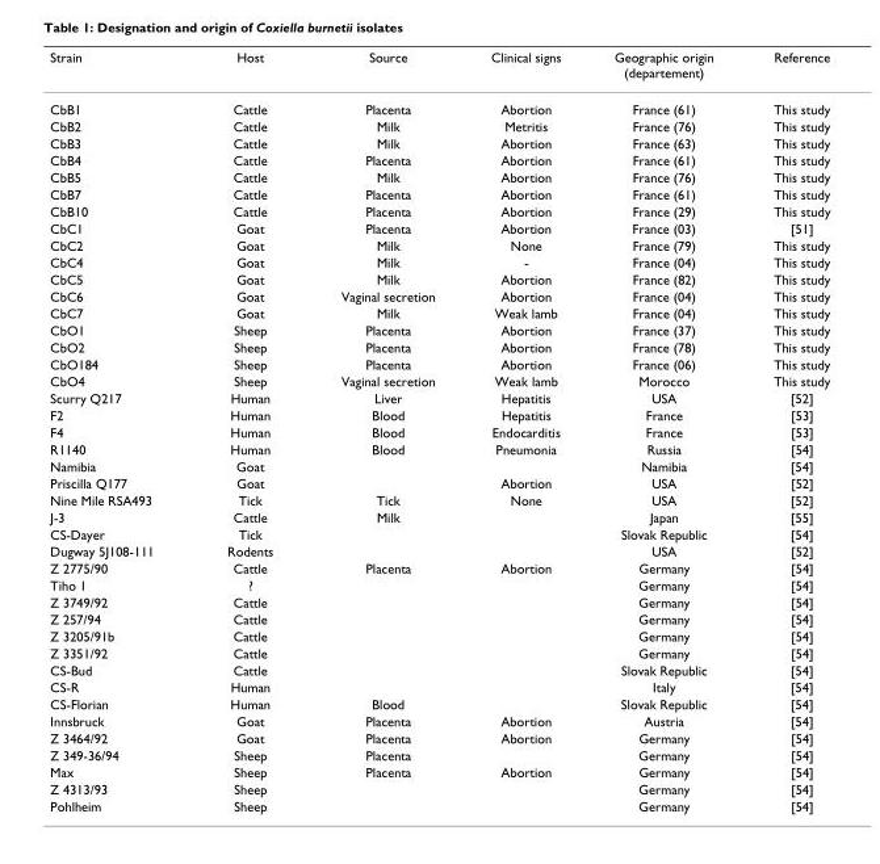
<table><thead><tr><td>Strain</td><td>Host</td><td>Source</td><td>Clinical signs</td><td>Geographic origin (departement)</td><td>Reference</td></tr></thead><tbody><tr><td>CbB1</td><td>Cattle</td><td>Placenta</td><td>Abortion</td><td>France (61)</td><td>This study</td></tr><tr><td>CbB2</td><td>Cattle</td><td>Milk</td><td>Metritis</td><td>France (76)</td><td>This study</td></tr><tr><td>CbB3</td><td>Cattle</td><td>Milk</td><td>Abortion</td><td>France (63)</td><td>This study</td></tr><tr><td>CbB4</td><td>Cattle</td><td>Placenta</td><td>Abortion</td><td>France (61)</td><td>This study</td></tr><tr><td>CbB5</td><td>Cattle</td><td>Milk</td><td>Abortion</td><td>France (76)</td><td>This study</td></tr><tr><td>CbB7</td><td>Cattle</td><td>Placenta</td><td>Abortion</td><td>France (61)</td><td>This study</td></tr><tr><td>CbB10</td><td>Cattle</td><td>Placenta</td><td>Abortion</td><td>France (29)</td><td>This study</td></tr><tr><td>CbC1</td><td>Goat</td><td>Placenta</td><td>Abortion</td><td>France (03)</td><td>[51]</td></tr><tr><td>CbC2</td><td>Goat</td><td>Milk</td><td>None</td><td>France (79)</td><td>This study</td></tr><tr><td>CbC4</td><td>Goat</td><td>Milk</td><td>-</td><td>France (04)</td><td>This study</td></tr><tr><td>CbC5</td><td>Goat</td><td>Milk</td><td>Abortion</td><td>France (82)</td><td>This study</td></tr><tr><td>CbC6</td><td>Goat</td><td>Vaginal secretion</td><td>Abortion</td><td>France (04)</td><td>This study</td></tr><tr><td>CbC7</td><td>Goat</td><td>Milk</td><td>Weak lamb</td><td>France (04)</td><td>This study</td></tr><tr><td>CbO1</td><td>Sheep</td><td>Placenta</td><td>Abortion</td><td>France (37)</td><td>This study</td></tr><tr><td>CbO2</td><td>Sheep</td><td>Placenta</td><td>Abortion</td><td>France (78)</td><td>This study</td></tr><tr><td>CbO184</td><td>Sheep</td><td>Placenta</td><td>Abortion</td><td>France (06)</td><td>This study</td></tr><tr><td>CbO4</td><td>Sheep</td><td>Vaginal secretion</td><td>Weak lamb</td><td>Morocco</td><td>This study</td></tr><tr><td>Scurry Q217</td><td>Human</td><td>Liver</td><td>Hepatitis</td><td>USA</td><td>[52]</td></tr><tr><td>F2</td><td>Human</td><td>Blood</td><td>Hepatitis</td><td>France</td><td>[53]</td></tr><tr><td>F4</td><td>Human</td><td>Blood</td><td>Endocarditis</td><td>France</td><td>[53]</td></tr><tr><td>R1140</td><td>Human</td><td>Blood</td><td>Pneumonia</td><td>Russia</td><td>[54]</td></tr><tr><td>Namibia</td><td>Goat</td><td></td><td></td><td>Namibia</td><td>[54]</td></tr><tr><td>Priscilla Q177</td><td>Goat</td><td></td><td>Abortion</td><td>USA</td><td>[52]</td></tr><tr><td>Nine Mile RSA493</td><td>Tick</td><td>Tick</td><td>None</td><td>USA</td><td>[52]</td></tr><tr><td>J-3</td><td>Cattle</td><td>Milk</td><td></td><td>Japan</td><td>[55]</td></tr><tr><td>CS-Dayer</td><td>Tick</td><td></td><td></td><td>Slovak Republic</td><td>[54]</td></tr><tr><td>Dugway 5J108-111</td><td>Rodents</td><td></td><td></td><td>USA</td><td>[52]</td></tr><tr><td>Z 2775/90</td><td>Cattle</td><td>Placenta</td><td>Abortion</td><td>Germany</td><td>[54]</td></tr><tr><td>Tiho 1</td><td>?</td><td></td><td></td><td>Germany</td><td>[54]</td></tr><tr><td>Z 3749/92</td><td>Cattle</td><td></td><td></td><td>Germany</td><td>[54]</td></tr><tr><td>Z 257/94</td><td>Cattle</td><td></td><td></td><td>Germany</td><td>[54]</td></tr><tr><td>Z 3205/91b</td><td>Cattle</td><td></td><td></td><td>Germany</td><td>[54]</td></tr><tr><td>Z 3351/92</td><td>Cattle</td><td></td><td></td><td>Germany</td><td>[54]</td></tr><tr><td>CS-Bud</td><td>Cattle</td><td></td><td></td><td>Slovak Republic</td><td>[54]</td></tr><tr><td>CS-R</td><td>Human</td><td></td><td></td><td>Italy</td><td>[54]</td></tr><tr><td>CS-Florian</td><td>Human</td><td>Blood</td><td></td><td>Slovak Republic</td><td>[54]</td></tr><tr><td>Innsbruck</td><td>Goat</td><td>Placenta</td><td>Abortion</td><td>Austria</td><td>[54]</td></tr><tr><td>Z 3464/92</td><td>Goat</td><td>Placenta</td><td>Abortion</td><td>Germany</td><td>[54]</td></tr><tr><td>Z 349-36/94</td><td>Sheep</td><td>Placenta</td><td></td><td>Germany</td><td>[54]</td></tr><tr><td>Max</td><td>Sheep</td><td>Placenta</td><td>Abortion</td><td>Germany</td><td>[54]</td></tr><tr><td>Z 4313/93</td><td>Sheep</td><td></td><td></td><td>Germany</td><td>[54]</td></tr><tr><td>Pohlheim</td><td>Sheep</td><td></td><td></td><td>Germany</td><td>[54]</td></tr></tbody></table>